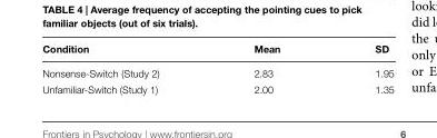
<table><thead><tr><td>Condition</td><td>Mean</td><td>SD</td></tr></thead><tbody><tr><td>Nonsense-Switch (Study 2)</td><td>2.83</td><td>1.95</td></tr><tr><td>Unfamiliar-Switch (Study 1)</td><td>2.00</td><td>1.35</td></tr></tbody></table>